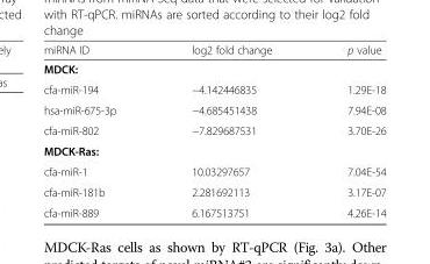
<table><thead><tr><td>miRNA ID</td><td>log2 fold change</td><td>p value</td></tr></thead><tbody><tr><td colspan="3">MDCK:</td></tr><tr><td>cfa-miR-194</td><td>−4.142446835</td><td>1.29E-18</td></tr><tr><td>hsa-miR-675-3p</td><td>−4.685451438</td><td>7.94E-08</td></tr><tr><td>cfa-miR-802</td><td>−7.829687531</td><td>3.70E-26</td></tr><tr><td colspan="3">MDCK-Ras:</td></tr><tr><td>cfa-miR-1</td><td>10.03297657</td><td>7.04E-54</td></tr><tr><td>cfa-miR-181b</td><td>2.281692113</td><td>3.17E-07</td></tr><tr><td>cfa-miR-889</td><td>6.167513751</td><td>4.26E-14</td></tr></tbody></table>